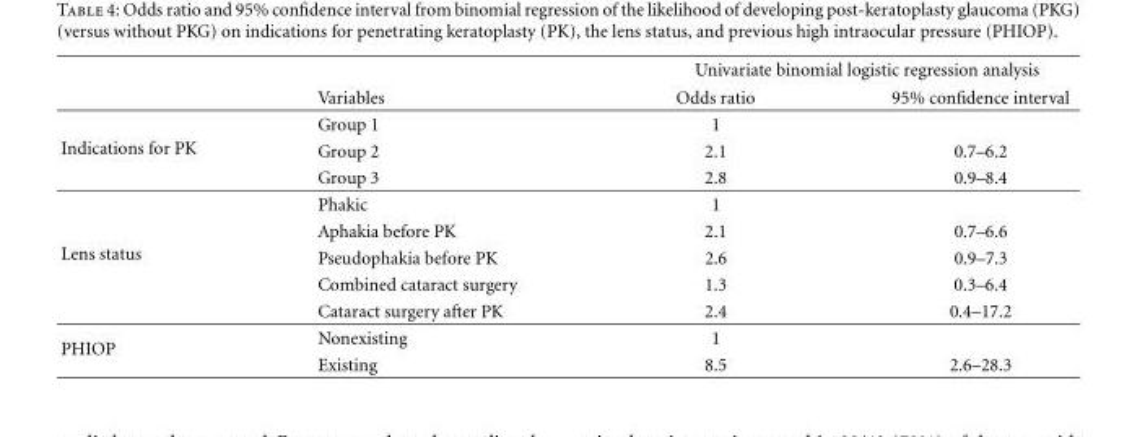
<table><thead><tr><td rowspan="2"></td><td rowspan="2">Variables</td><td colspan="2">Univariate binomial logistic regression analysis</td></tr><tr><td>Odds ratio</td><td>95% confidence interval</td></tr></thead><tbody><tr><td rowspan="3">Indications for PK</td><td>Group 1</td><td>1</td><td></td></tr><tr><td>Group 2</td><td>2.1</td><td>0.7–6.2</td></tr><tr><td>Group 3</td><td>2.8</td><td>0.9–8.4</td></tr><tr><td rowspan="5">Lens status</td><td>Phakic</td><td>1</td><td></td></tr><tr><td>Aphakia before PK</td><td>2.1</td><td>0.7–6.6</td></tr><tr><td>Pseudophakia before PK</td><td>2.6</td><td>0.9–7.3</td></tr><tr><td>Combined cataract surgery</td><td>1.3</td><td>0.3–6.4</td></tr><tr><td>Cataract surgery after PK</td><td>2.4</td><td>0.4–17.2</td></tr><tr><td rowspan="2">PHIOP</td><td>Nonexisting</td><td>1</td><td></td></tr><tr><td>Existing</td><td>8.5</td><td>2.6–28.3</td></tr></tbody></table>